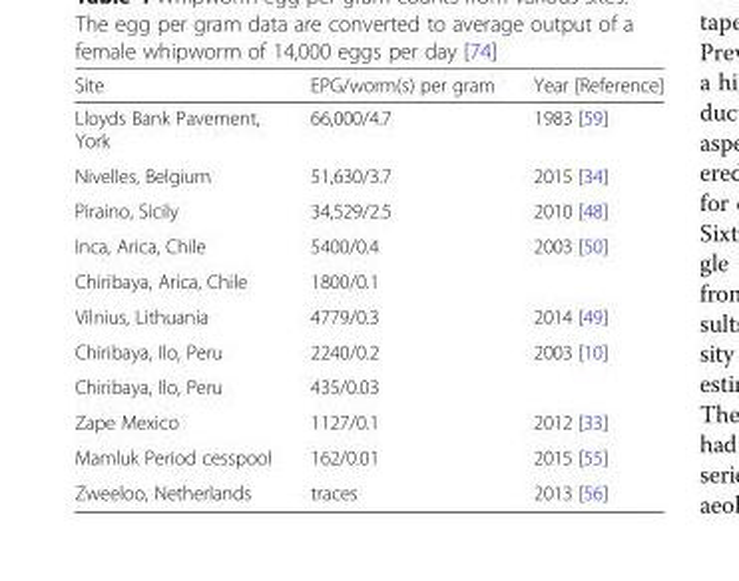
<table><thead><tr><td>Site</td><td>EPG/worm(s) per gram</td><td>Year [Reference]</td></tr></thead><tbody><tr><td>Lloyds Bank Pavement, York</td><td>66,000/4.7</td><td>1983 [59]</td></tr><tr><td>Nivelles, Belgium</td><td>51,630/3.7</td><td>2015 [34]</td></tr><tr><td>Piraino, Sicily</td><td>34,529/2.5</td><td>2010 [48]</td></tr><tr><td>Inca, Arica, Chile</td><td>5400/0.4</td><td rowspan="2">2003 [50]</td></tr><tr><td>Chiribaya, Arica, Chile</td><td>1800/0.1</td></tr><tr><td>Vilnius, Lithuania</td><td>4779/0.3</td><td>2014 [49]</td></tr><tr><td>Chiribaya, Ilo, Peru</td><td>2240/0.2</td><td rowspan="2">2003 [10]</td></tr><tr><td>Chiribaya, Ilo, Peru</td><td>435/0.03</td></tr><tr><td>Zape Mexico</td><td>1127/0.1</td><td>2012 [33]</td></tr><tr><td>Mamluk Period cesspool</td><td>162/0.01</td><td>2015 [55]</td></tr><tr><td>Zweeloo, Netherlands</td><td>traces</td><td>2013 [56]</td></tr></tbody></table>